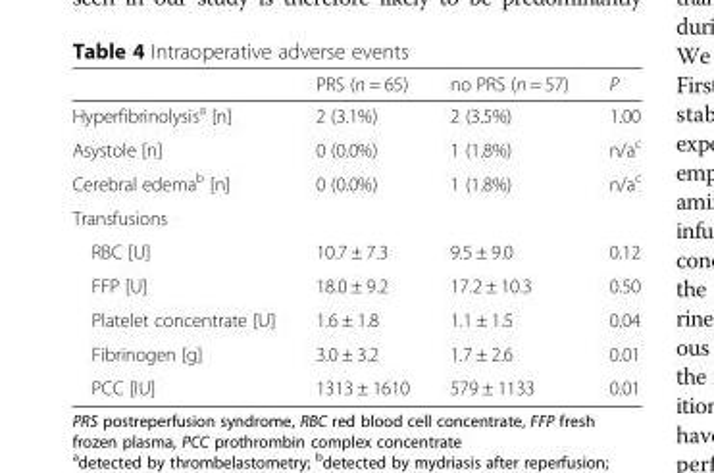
<table><thead><tr><td></td><td>PRS (n = 65)</td><td>no PRS (n = 57)</td><td>P</td></tr></thead><tbody><tr><td>Hyperfibrinolysis<sup>a</sup> [n]</td><td>2 (3.1%)</td><td>2 (3.5%)</td><td>1.00</td></tr><tr><td>Asystole [n]</td><td>0 (0.0%)</td><td>1 (1.8%)</td><td>n/a<sup>c</sup></td></tr><tr><td>Cerebral edema<sup>b</sup> [n]</td><td>0 (0.0%)</td><td>1 (1.8%)</td><td>n/a<sup>c</sup></td></tr><tr><td colspan="4">Transfusions</td></tr><tr><td>RBC [U]</td><td>10.7 ± 7.3</td><td>9.5 ± 9.0</td><td>0.12</td></tr><tr><td>FFP [U]</td><td>18.0 ± 9.2</td><td>17.2 ± 10.3</td><td>0.50</td></tr><tr><td>Platelet concentrate [U]</td><td>1.6 ± 1.8</td><td>1.1 ± 1.5</td><td>0.04</td></tr><tr><td>Fibrinogen [g]</td><td>3.0 ± 3.2</td><td>1.7 ± 2.6</td><td>0.01</td></tr><tr><td>PCC [IU]</td><td>1313 ± 1610</td><td>579 ± 1133</td><td>0.01</td></tr></tbody></table>